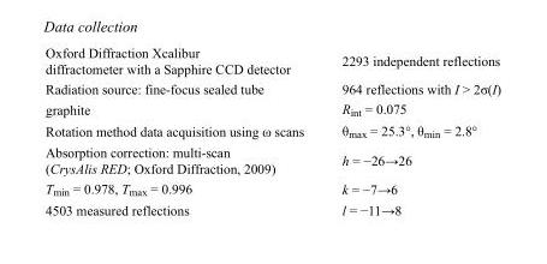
<table><tbody><tr><td>Oxford Diffraction Xcalibur diffractometer with a Sapphire CCD detector</td><td>2293 independent reflections</td></tr><tr><td>Radiation source: fine-focus sealed tube</td><td>964 reflections with I &gt; 2σ(I)</td></tr><tr><td>graphite</td><td>R<sub>int</sub> = 0.075</td></tr><tr><td>Rotation method data acquisition using ω scans</td><td>θ<sub>max</sub> = 25.3°, θ<sub>min</sub> = 2.8°</td></tr><tr><td>Absorption correction: multi-scan (CrysAlis RED; Oxford Diffraction, 2009)</td><td>h = −26→26</td></tr><tr><td>T<sub>min</sub> = 0.978, T<sub>max</sub> = 0.996</td><td>k = −7→6</td></tr><tr><td>4503 measured reflections</td><td>l = −11→8</td></tr></tbody></table>